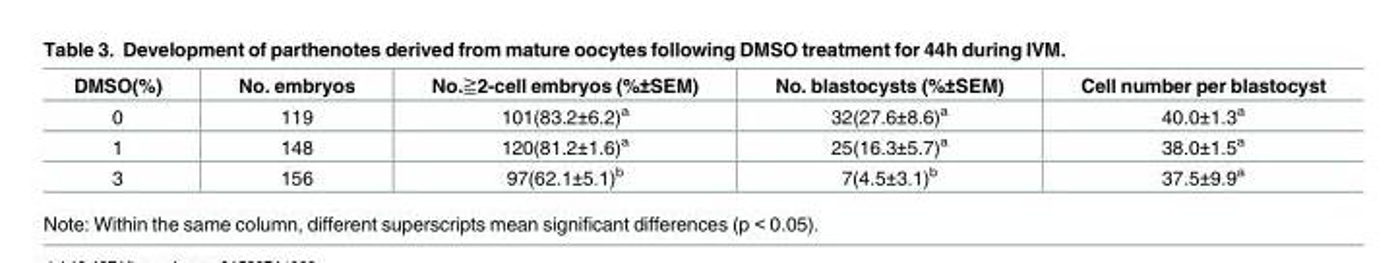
<table><thead><tr><td>DMSO(%)</td><td>No. embryos</td><td>No.≧2-cell embryos (%±SEM)</td><td>No. blastocysts (%±SEM)</td><td>Cell number per blastocyst</td></tr></thead><tbody><tr><td>0</td><td>119</td><td>101(83.2±6.2)<sup>a</sup></td><td>32(27.6±8.6)<sup>a</sup></td><td>40.0±1.3<sup>a</sup></td></tr><tr><td>1</td><td>148</td><td>120(81.2±1.6)<sup>a</sup></td><td>25(16.3±5.7)<sup>a</sup></td><td>38.0±1.5<sup>a</sup></td></tr><tr><td>3</td><td>156</td><td>97(62.1±5.1)<sup>b</sup></td><td>7(4.5±3.1)<sup>b</sup></td><td>37.5±9.9<sup>a</sup></td></tr></tbody></table>